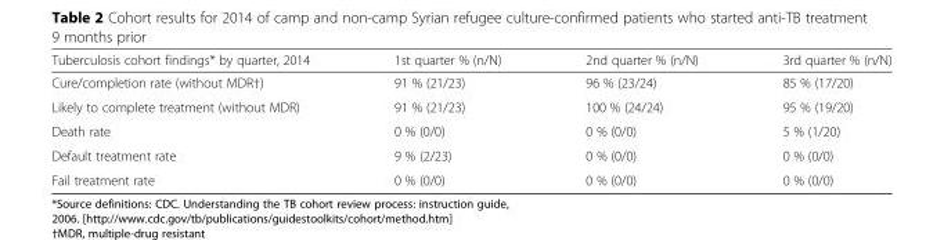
<table><thead><tr><td>Tuberculosis cohort findings* by quarter, 2014</td><td>1st quarter % (n/N)</td><td>2nd quarter % (n/N)</td><td>3rd quarter % (n/N)</td></tr></thead><tbody><tr><td>Cure/completion rate (without MDR†)</td><td>91 % (21/23)</td><td>96 % (23/24)</td><td>85 % (17/20)</td></tr><tr><td>Likely to complete treatment (without MDR)</td><td>91 % (21/23)</td><td>100 % (24/24)</td><td>95 % (19/20)</td></tr><tr><td>Death rate</td><td>0 % (0/0)</td><td>0 % (0/0)</td><td>5 % (1/20)</td></tr><tr><td>Default treatment rate</td><td>9 % (2/23)</td><td>0 % (0/0)</td><td>0 % (0/0)</td></tr><tr><td>Fail treatment rate</td><td>0 % (0/0)</td><td>0 % (0/0)</td><td>0 % (0/0)</td></tr></tbody></table>